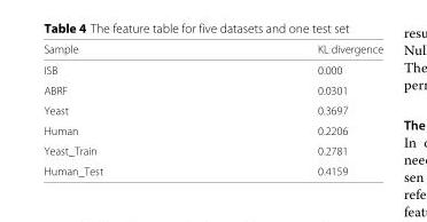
<table><thead><tr><td>Sample</td><td>KL divergence</td></tr></thead><tbody><tr><td>ISB</td><td>0.000</td></tr><tr><td>ABRF</td><td>0.0301</td></tr><tr><td>Yeast</td><td>0.3697</td></tr><tr><td>Human</td><td>0.2206</td></tr><tr><td>Yeast_Train</td><td>0.2781</td></tr><tr><td>Human_Test</td><td>0.4159</td></tr></tbody></table>